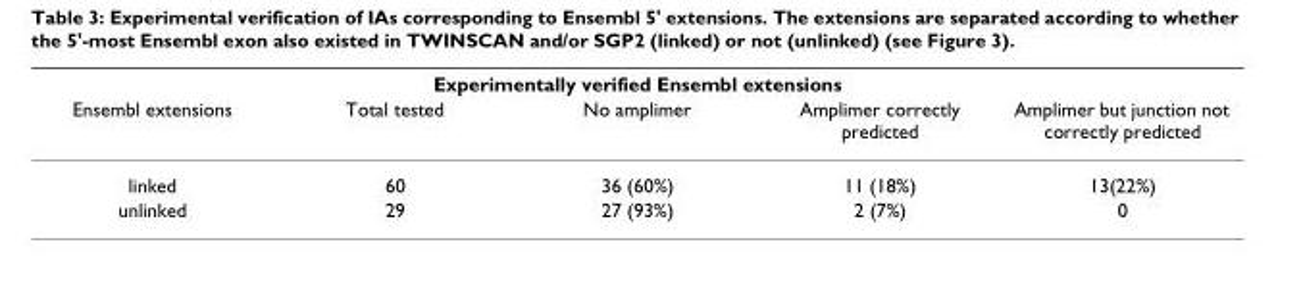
<table><thead><tr><td colspan="5">Experimentally verified Ensembl extensions</td></tr><tr><td>Ensembl extensions</td><td>Total tested</td><td>No amplimer</td><td>Amplimer correctly predicted</td><td>Amplimer but junction not correctly predicted</td></tr></thead><tbody><tr><td>linked</td><td>60</td><td>36 (60%)</td><td>11 (18%)</td><td>13(22%)</td></tr><tr><td>unlinked</td><td>29</td><td>27 (93%)</td><td>2 (7%)</td><td>0</td></tr></tbody></table>